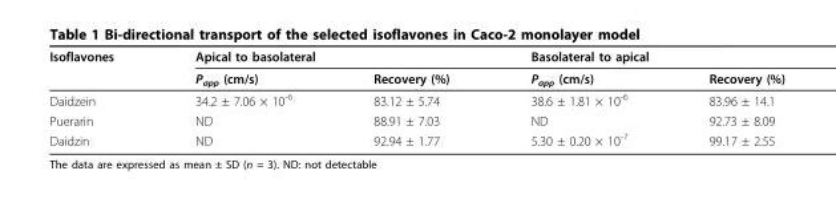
<table><thead><tr><td rowspan="2">Isoflavones</td><td colspan="2">Apical to basolateral</td><td colspan="2">Basolateral to apical</td></tr><tr><td>P<sub>app</sub> (cm/s)</td><td>Recovery (%)</td><td>P<sub>app</sub> (cm/s)</td><td>Recovery (%)</td></tr></thead><tbody><tr><td>Daidzein</td><td>34.2 ± 7.06 × 10<sup>-6</sup></td><td>83.12 ± 5.74</td><td>38.6 ± 1.81 × 10<sup>-6</sup></td><td>83.96 ± 14.1</td></tr><tr><td>Puerarin</td><td>ND</td><td>88.91 ± 7.03</td><td>ND</td><td>92.73 ± 8.09</td></tr><tr><td>Daidzin</td><td>ND</td><td>92.94 ± 1.77</td><td>5.30 ± 0.20 × 10<sup>-7</sup></td><td>99.17 ± 2.55</td></tr></tbody></table>